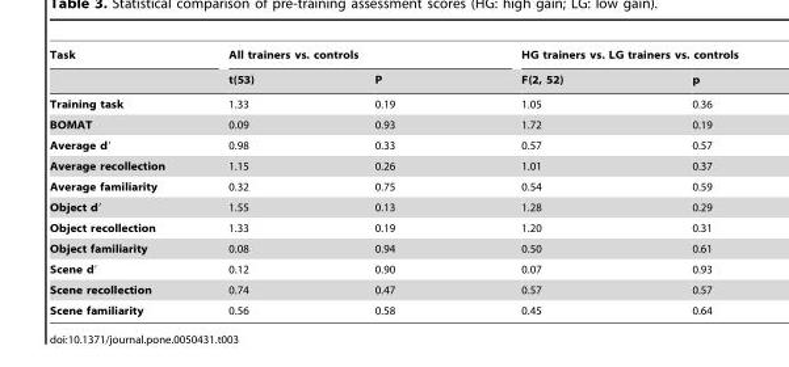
<table><thead><tr><td rowspan="2">Task</td><td colspan="2">All trainers vs. controls</td><td colspan="2">HG trainers vs. LG trainers vs. controls</td></tr><tr><td>t(53)</td><td>P</td><td>F(2, 52)</td><td>p</td></tr></thead><tbody><tr><td>Training task</td><td>1.33</td><td>0.19</td><td>1.05</td><td>0.36</td></tr><tr><td>BOMAT</td><td>0.09</td><td>0.93</td><td>1.72</td><td>0.19</td></tr><tr><td>Average d′</td><td>0.98</td><td>0.33</td><td>0.57</td><td>0.57</td></tr><tr><td>Average recollection</td><td>1.15</td><td>0.26</td><td>1.01</td><td>0.37</td></tr><tr><td>Average familiarity</td><td>0.32</td><td>0.75</td><td>0.54</td><td>0.59</td></tr><tr><td>Object d′</td><td>1.55</td><td>0.13</td><td>1.28</td><td>0.29</td></tr><tr><td>Object recollection</td><td>1.33</td><td>0.19</td><td>1.20</td><td>0.31</td></tr><tr><td>Object familiarity</td><td>0.08</td><td>0.94</td><td>0.50</td><td>0.61</td></tr><tr><td>Scene d′</td><td>0.12</td><td>0.90</td><td>0.07</td><td>0.93</td></tr><tr><td>Scene recollection</td><td>0.74</td><td>0.47</td><td>0.57</td><td>0.57</td></tr><tr><td>Scene familiarity</td><td>0.56</td><td>0.58</td><td>0.45</td><td>0.64</td></tr></tbody></table>